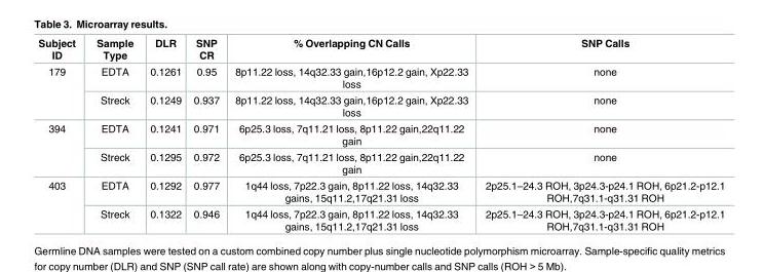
<table><thead><tr><td>Subject ID</td><td>Sample Type</td><td>DLR</td><td>SNP CR</td><td>% Overlapping CN Calls</td><td>SNP Calls</td></tr></thead><tbody><tr><td rowspan="2">179</td><td>EDTA</td><td>0.1261</td><td>0.95</td><td>8p11.22 loss, 14q32.33 gain,16p12.2 gain, Xp22.33 loss</td><td>none</td></tr><tr><td>Streck</td><td>0.1249</td><td>0.937</td><td>8p11.22 loss, 14q32.33 gain,16p12.2 gain, Xp22.33 loss</td><td>none</td></tr><tr><td rowspan="2">394</td><td>EDTA</td><td>0.1241</td><td>0.971</td><td>6p25.3 loss, 7q11.21 loss, 8p11.22 gain,22q11.22 gain</td><td>none</td></tr><tr><td>Streck</td><td>0.1295</td><td>0.972</td><td>6p25.3 loss, 7q11.21 loss, 8p11.22 gain,22q11.22 gain</td><td>none</td></tr><tr><td rowspan="2">403</td><td>EDTA</td><td>0.1292</td><td>0.977</td><td>1q44 loss, 7p22.3 gain, 8p11.22 loss, 14q32.33 gains, 15q11.2,17q21.31 loss</td><td>2p25.1–24.3 ROH, 3p24.3-p24.1 ROH, 6p21.2-p12.1 ROH,7q31.1-q31.31 ROH</td></tr><tr><td>Streck</td><td>0.1322</td><td>0.946</td><td>1q44 loss, 7p22.3 gain, 8p11.22 loss, 14q32.33 gains, 15q11.2,17q21.31 loss</td><td>2p25.1–24.3 ROH, 3p24.3-p24.1 ROH, 6p21.2-p12.1 ROH,7q31.1-q31.31 ROH</td></tr></tbody></table>